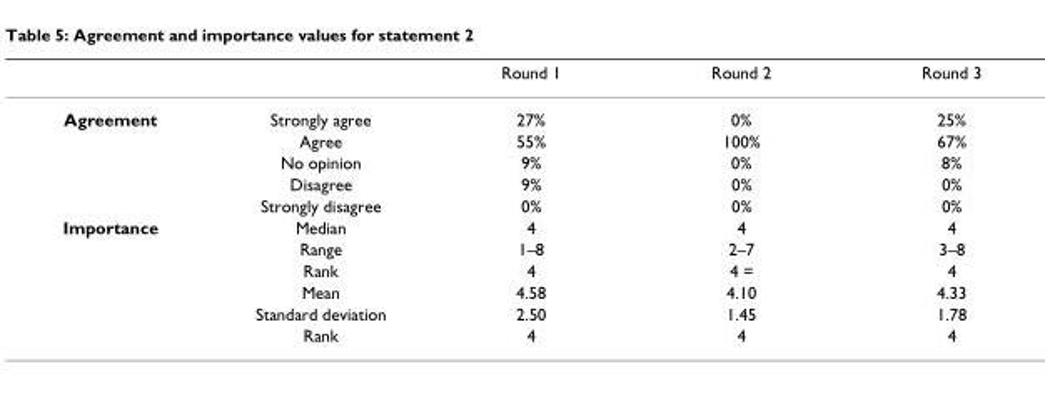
<table><thead><tr><td></td><td></td><td>Round 1</td><td>Round 2</td><td>Round 3</td></tr></thead><tbody><tr><td rowspan="5">Agreement</td><td>Strongly agree</td><td>27%</td><td>0%</td><td>25%</td></tr><tr><td>Agree</td><td>55%</td><td>100%</td><td>67%</td></tr><tr><td>No opinion</td><td>9%</td><td>0%</td><td>8%</td></tr><tr><td>Disagree</td><td>9%</td><td>0%</td><td>0%</td></tr><tr><td>Strongly disagree</td><td>0%</td><td>0%</td><td>0%</td></tr><tr><td rowspan="6">Importance</td><td>Median</td><td>4</td><td>4</td><td>4</td></tr><tr><td>Range</td><td>1–8</td><td>2–7</td><td>3–8</td></tr><tr><td>Rank</td><td>4</td><td>4 =</td><td>4</td></tr><tr><td>Mean</td><td>4.58</td><td>4.10</td><td>4.33</td></tr><tr><td>Standard deviation</td><td>2.50</td><td>1.45</td><td>1.78</td></tr><tr><td>Rank</td><td>4</td><td>4</td><td>4</td></tr></tbody></table>